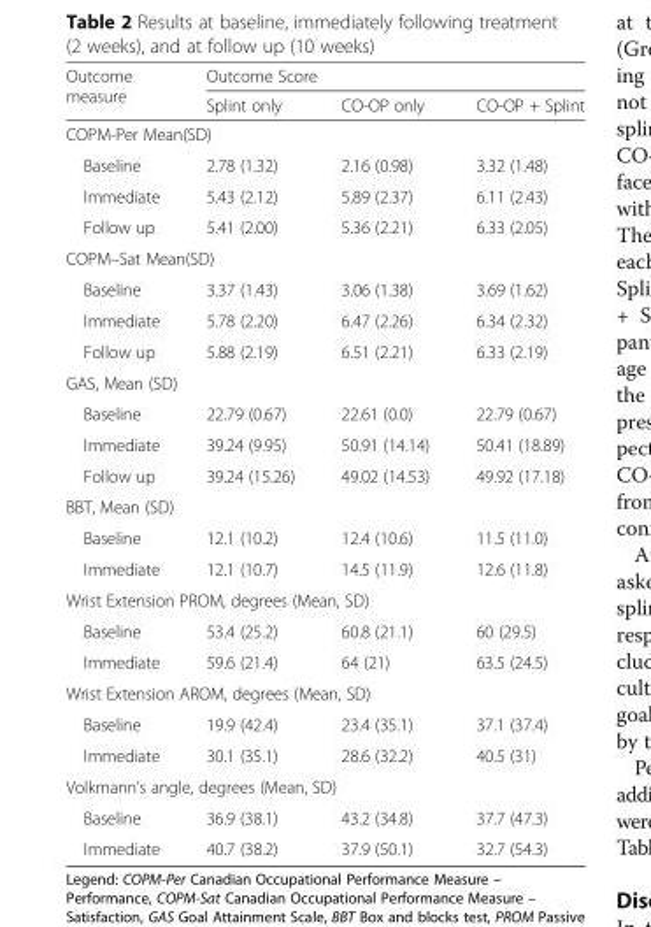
<table><thead><tr><td rowspan="2">Outcome measure</td><td colspan="3">Outcome Score</td></tr><tr><td>Splint only</td><td>CO-OP only</td><td>CO-OP + Splint</td></tr></thead><tbody><tr><td colspan="4">COPM-Per Mean(SD)</td></tr><tr><td>Baseline</td><td>2.78 (1.32)</td><td>2.16 (0.98)</td><td>3.32 (1.48)</td></tr><tr><td>Immediate</td><td>5.43 (2.12)</td><td>5.89 (2.37)</td><td>6.11 (2.43)</td></tr><tr><td>Follow up</td><td>5.41 (2.00)</td><td>5.36 (2.21)</td><td>6.33 (2.05)</td></tr><tr><td colspan="4">COPM–Sat Mean(SD)</td></tr><tr><td>Baseline</td><td>3.37 (1.43)</td><td>3.06 (1.38)</td><td>3.69 (1.62)</td></tr><tr><td>Immediate</td><td>5.78 (2.20)</td><td>6.47 (2.26)</td><td>6.34 (2.32)</td></tr><tr><td>Follow up</td><td>5.88 (2.19)</td><td>6.51 (2.21)</td><td>6.33 (2.19)</td></tr><tr><td colspan="4">GAS, Mean (SD)</td></tr><tr><td>Baseline</td><td>22.79 (0.67)</td><td>22.61 (0.0)</td><td>22.79 (0.67)</td></tr><tr><td>Immediate</td><td>39.24 (9.95)</td><td>50.91 (14.14)</td><td>50.41 (18.89)</td></tr><tr><td>Follow up</td><td>39.24 (15.26)</td><td>49.02 (14.53)</td><td>49.92 (17.18)</td></tr><tr><td colspan="4">BBT, Mean (SD)</td></tr><tr><td>Baseline</td><td>12.1 (10.2)</td><td>12.4 (10.6)</td><td>11.5 (11.0)</td></tr><tr><td>Immediate</td><td>12.1 (10.7)</td><td>14.5 (11.9)</td><td>12.6 (11.8)</td></tr><tr><td colspan="4">Wrist Extension PROM, degrees (Mean, SD)</td></tr><tr><td>Baseline</td><td>53.4 (25.2)</td><td>60.8 (21.1)</td><td>60 (29.5)</td></tr><tr><td>Immediate</td><td>59.6 (21.4)</td><td>64 (21)</td><td>63.5 (24.5)</td></tr><tr><td colspan="4">Wrist Extension AROM, degrees (Mean, SD)</td></tr><tr><td>Baseline</td><td>19.9 (42.4)</td><td>23.4 (35.1)</td><td>37.1 (37.4)</td></tr><tr><td>Immediate</td><td>30.1 (35.1)</td><td>28.6 (32.2)</td><td>40.5 (31)</td></tr><tr><td colspan="4">Volkmann’s angle, degrees (Mean, SD)</td></tr><tr><td>Baseline</td><td>36.9 (38.1)</td><td>43.2 (34.8)</td><td>37.7 (47.3)</td></tr><tr><td>Immediate</td><td>40.7 (38.2)</td><td>37.9 (50.1)</td><td>32.7 (54.3)</td></tr></tbody></table>